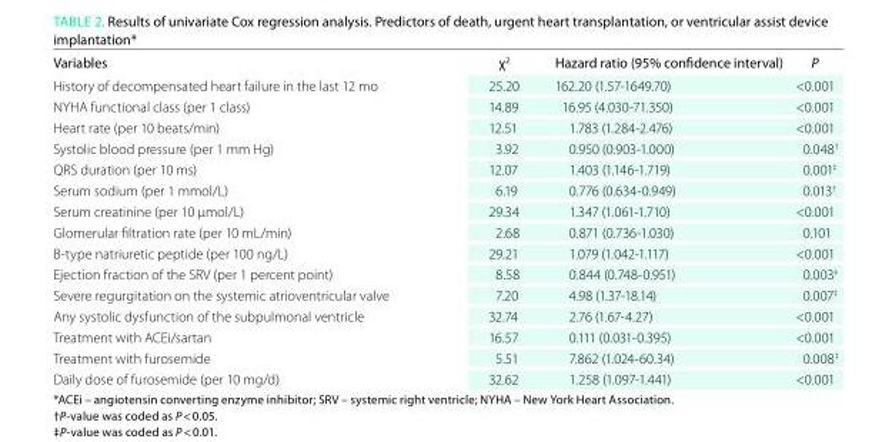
<table><thead><tr><td>Variables</td><td>χ<sup>2</sup></td><td>Hazard ratio (95% confidence interval)</td><td>P</td></tr></thead><tbody><tr><td>History of decompensated heart failure in the last 12 mo</td><td>25.20</td><td>162.20 (1.57-1649.70)</td><td>&lt;0.001</td></tr><tr><td>NYHA functional class (per 1 class)</td><td>14.89</td><td>16.95 (4.030-71.350)</td><td>&lt;0.001</td></tr><tr><td>Heart rate (per 10 beats/min)</td><td>12.51</td><td>1.783 (1.284-2.476)</td><td>&lt;0.001</td></tr><tr><td>Systolic blood pressure (per 1 mm Hg)</td><td>3.92</td><td>0.950 (0.903-1.000)</td><td>0.048<sup>†</sup></td></tr><tr><td>QRS duration (per 10 ms)</td><td>12.07</td><td>1.403 (1.146-1.719)</td><td>0.001<sup>‡</sup></td></tr><tr><td>Serum sodium (per 1 mmol/L)</td><td>6.19</td><td>0.776 (0.634-0.949)</td><td>0.013<sup>†</sup></td></tr><tr><td>Serum creatinine (per 10 µmol/L)</td><td>29.34</td><td>1.347 (1.061-1.710)</td><td>&lt;0.001</td></tr><tr><td>Glomerular filtration rate (per 10 mL/min)</td><td>2.68</td><td>0.871 (0.736-1.030)</td><td>0.101</td></tr><tr><td>B-type natriuretic peptide (per 100 ng/L)</td><td>29.21</td><td>1.079 (1.042-1.117)</td><td>&lt;0.001</td></tr><tr><td>Ejection fraction of the SRV (per 1 percent point)</td><td>8.58</td><td>0.844 (0.748-0.951)</td><td>0.003<sup>‡</sup></td></tr><tr><td>Severe regurgitation on the systemic atrioventricular valve</td><td>7.20</td><td>4.98 (1.37-18.14)</td><td>0.007<sup>‡</sup></td></tr><tr><td>Any systolic dysfunction of the subpulmonal ventricle</td><td>32.74</td><td>2.76 (1.67-4.27)</td><td>&lt;0.001</td></tr><tr><td>Treatment with ACEi/sartan</td><td>16.57</td><td>0.111 (0.031-0.395)</td><td>&lt;0.001</td></tr><tr><td>Treatment with furosemide</td><td>5.51</td><td>7.862 (1.024-60.34)</td><td>0.008<sup>‡</sup></td></tr><tr><td>Daily dose of furosemide (per 10 mg/d)</td><td>32.62</td><td>1.258 (1.097-1.441)</td><td>&lt;0.001</td></tr></tbody></table>